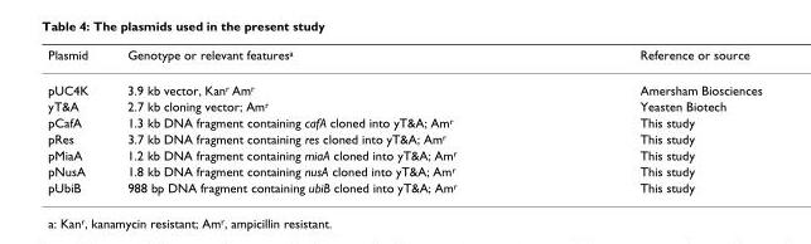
<table><thead><tr><td>Plasmid</td><td>Genotype or relevant features<sup>a</sup></td><td>Reference or source</td></tr></thead><tbody><tr><td>pUC4K</td><td>3.9 kb vector, Kan<sup>r</sup> Am<sup>r</sup></td><td>Amersham Biosciences</td></tr><tr><td>yT&amp;A</td><td>2.7 kb cloning vector; Am<sup>r</sup></td><td>Yeasten Biotech</td></tr><tr><td>pCafA</td><td>1.3 kb DNA fragment containing cafA cloned into yT&amp;A; Am<sup>r</sup></td><td>This study</td></tr><tr><td>pRes</td><td>3.7 kb DNA fragment containing res cloned into yT&amp;A; Am<sup>r</sup></td><td>This study</td></tr><tr><td>pMiaA</td><td>1.2 kb DNA fragment containing miaA cloned into yT&amp;A; Am<sup>r</sup></td><td>This study</td></tr><tr><td>pNusA</td><td>1.8 kb DNA fragment containing nusA cloned into yT&amp;A; Am<sup>r</sup></td><td>This study</td></tr><tr><td>pUbiB</td><td>988 bp DNA fragment containing ubiB cloned into yT&amp;A; Am<sup>r</sup></td><td>This study</td></tr></tbody></table>